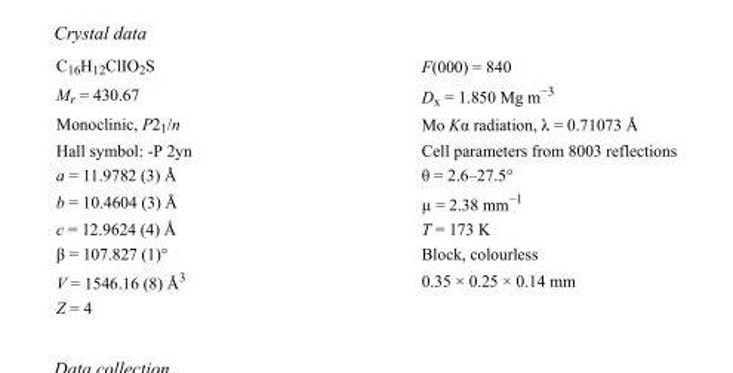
<table><tbody><tr><td>C<sub>16</sub>H<sub>12</sub>ClIO<sub>2</sub>S</td><td>F(000) = 840</td></tr><tr><td>M<sub>r</sub> = 430.67</td><td>D<sub>x</sub> = 1.850 Mg m<sup>−3</sup></td></tr><tr><td>Monoclinic, P2<sub>1</sub>/n</td><td>Mo Kα radiation, λ = 0.71073 Å</td></tr><tr><td>Hall symbol: -P 2yn</td><td>Cell parameters from 8003 reflections</td></tr><tr><td>a = 11.9782 (3) Å</td><td>θ = 2.6–27.5°</td></tr><tr><td>b = 10.4604 (3) Å</td><td>µ = 2.38 mm<sup>−1</sup></td></tr><tr><td>c = 12.9624 (4) Å</td><td>T = 173 K</td></tr><tr><td>β = 107.827 (1)°</td><td>Block, colourless</td></tr><tr><td>V = 1546.16 (8) Å<sup>3</sup></td><td>0.35 × 0.25 × 0.14 mm</td></tr><tr><td>Z = 4</td><td></td></tr></tbody></table>